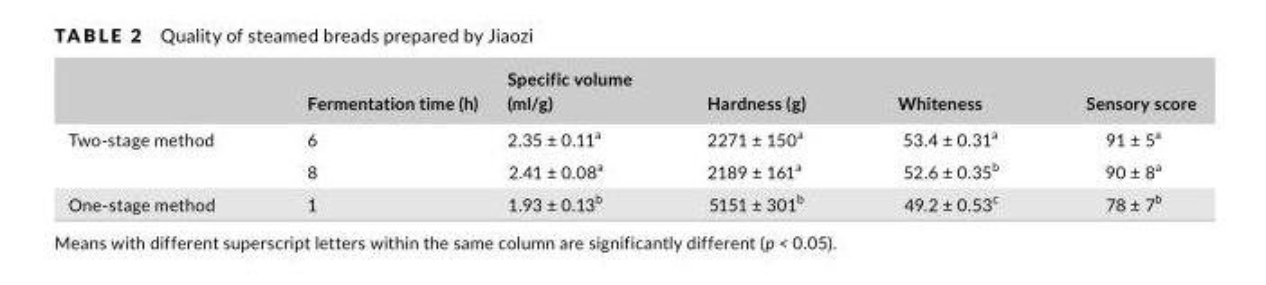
<table><thead><tr><td></td><td>Fermentation time (h)</td><td>Specific volume (ml/g)</td><td>Hardness (g)</td><td>Whiteness</td><td>Sensory score</td></tr></thead><tbody><tr><td rowspan="2">Two- stage method</td><td>6</td><td>2.35 ± 0.11<sup>a</sup></td><td>2271 ± 150<sup>a</sup></td><td>53.4 ± 0.31<sup>a</sup></td><td>91 ± 5<sup>a</sup></td></tr><tr><td>8</td><td>2.41 ± 0.08<sup>a</sup></td><td>2189 ± 161<sup>a</sup></td><td>52.6 ± 0.35<sup>b</sup></td><td>90 ± 8<sup>a</sup></td></tr><tr><td>One- stage method</td><td>1</td><td>1.93 ± 0.13<sup>b</sup></td><td>5151 ± 301<sup>b</sup></td><td>49.2 ± 0.53<sup>c</sup></td><td>78 ± 7<sup>b</sup></td></tr></tbody></table>